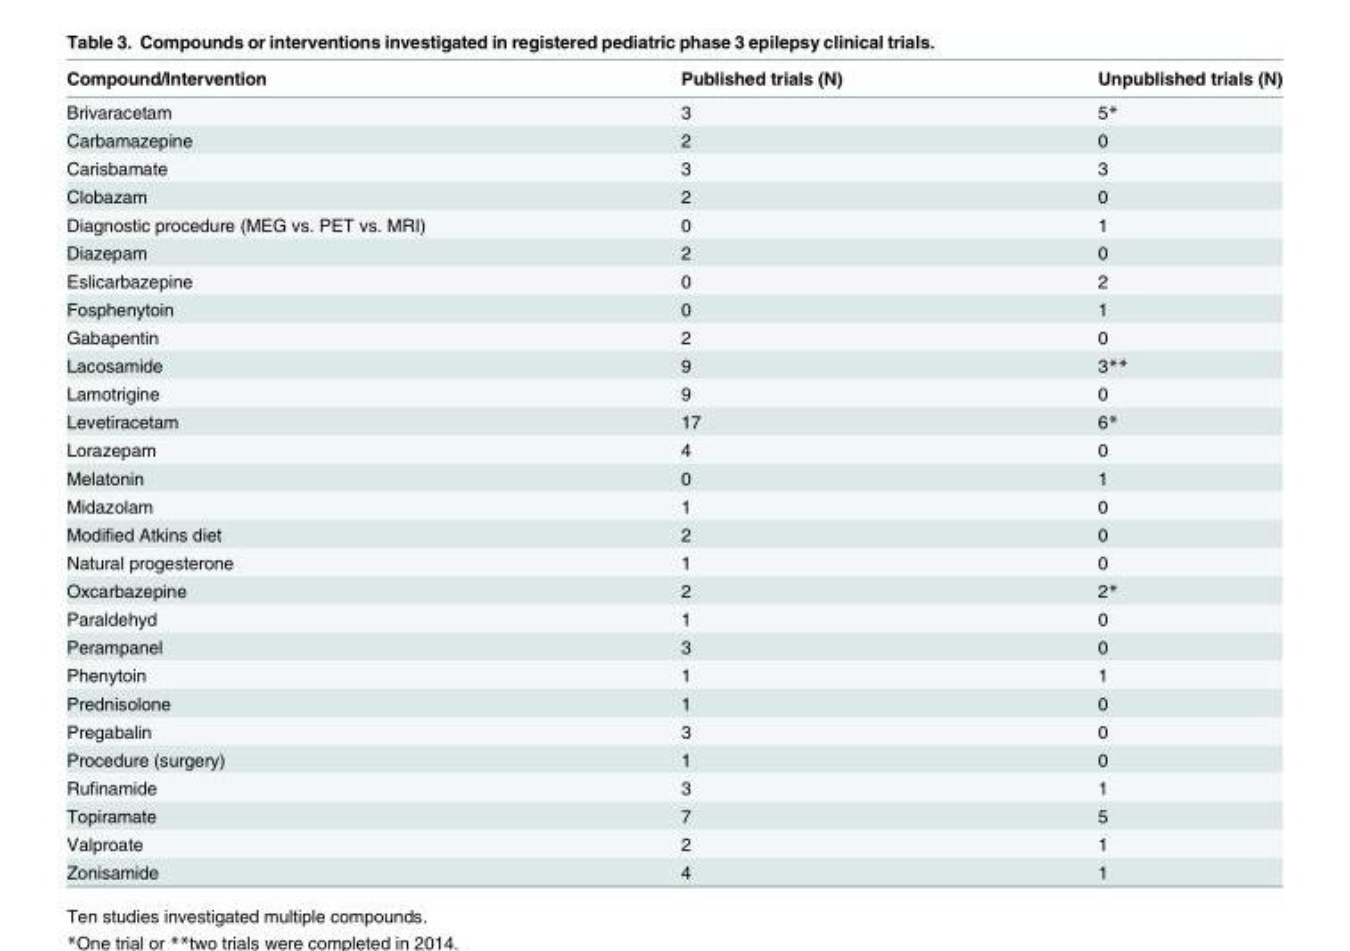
<table><thead><tr><td>Compound/Intervention</td><td>Published trials (N)</td><td>Unpublished trials (N)</td></tr></thead><tbody><tr><td>Brivaracetam</td><td>3</td><td>5*</td></tr><tr><td>Carbamazepine</td><td>2</td><td>0</td></tr><tr><td>Carisbamate</td><td>3</td><td>3</td></tr><tr><td>Clobazam</td><td>2</td><td>0</td></tr><tr><td>Diagnostic procedure (MEG vs. PET vs. MRI)</td><td>0</td><td>1</td></tr><tr><td>Diazepam</td><td>2</td><td>0</td></tr><tr><td>Eslicarbazepine</td><td>0</td><td>2</td></tr><tr><td>Fosphenytoin</td><td>0</td><td>1</td></tr><tr><td>Gabapentin</td><td>2</td><td>0</td></tr><tr><td>Lacosamide</td><td>9</td><td>3**</td></tr><tr><td>Lamotrigine</td><td>9</td><td>0</td></tr><tr><td>Levetiracetam</td><td>17</td><td>6*</td></tr><tr><td>Lorazepam</td><td>4</td><td>0</td></tr><tr><td>Melatonin</td><td>0</td><td>1</td></tr><tr><td>Midazolam</td><td>1</td><td>0</td></tr><tr><td>Modified Atkins diet</td><td>2</td><td>0</td></tr><tr><td>Natural progesterone</td><td>1</td><td>0</td></tr><tr><td>Oxcarbazepine</td><td>2</td><td>2*</td></tr><tr><td>Paraldehyd</td><td>1</td><td>0</td></tr><tr><td>Perampanel</td><td>3</td><td>0</td></tr><tr><td>Phenytoin</td><td>1</td><td>1</td></tr><tr><td>Prednisolone</td><td>1</td><td>0</td></tr><tr><td>Pregabalin</td><td>3</td><td>0</td></tr><tr><td>Procedure (surgery)</td><td>1</td><td>0</td></tr><tr><td>Rufinamide</td><td>3</td><td>1</td></tr><tr><td>Topiramate</td><td>7</td><td>5</td></tr><tr><td>Valproate</td><td>2</td><td>1</td></tr><tr><td>Zonisamide</td><td>4</td><td>1</td></tr></tbody></table>